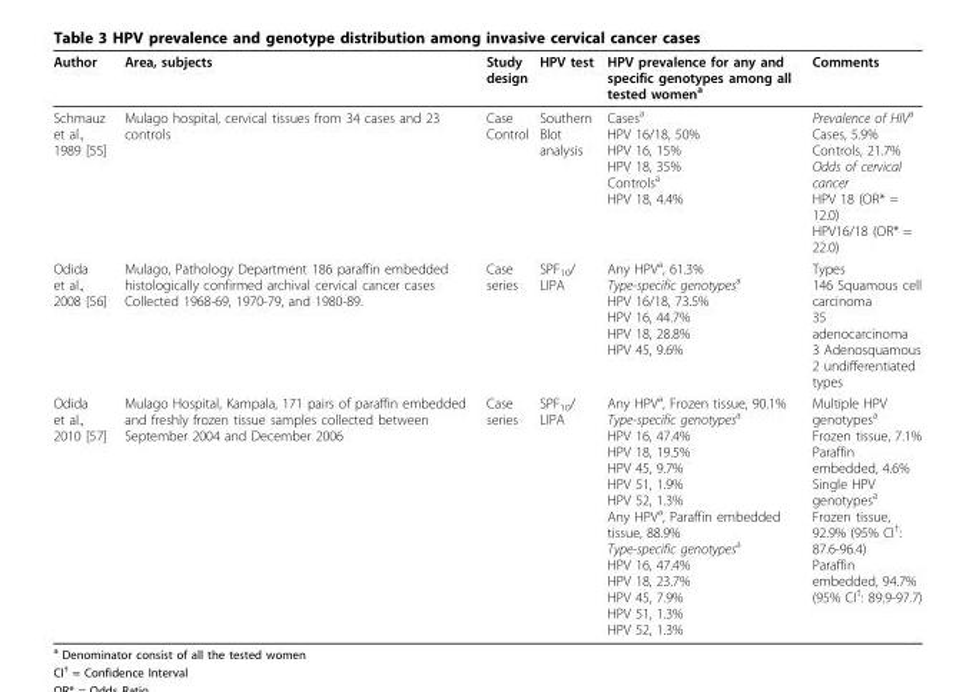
<table><thead><tr><td>Author</td><td>Area, subjects</td><td>Study design</td><td>HPV test</td><td>HPV prevalence for any and specific genotypes among all tested women<sup>a</sup></td><td>Comments</td></tr></thead><tbody><tr><td>Schmauz et al., 1989 [55]</td><td>Mulago hospital, cervical tissues from 34 cases and 23 controls</td><td>Case Control</td><td>Southern Blot analysis</td><td>Cases<sup>a</sup> HPV 16/18, 50% HPV 16, 15% HPV 18, 35% Controls<sup>a</sup> HPV 18, 4.4%</td><td>Prevalence of HIV<sup>a</sup> Cases, 5.9% Controls, 21.7% Odds of cervical cancer HPV 18 (OR* = 12.0) HPV16/18 (OR* = 22.0)</td></tr><tr><td>Odida et al., 2008 [56]</td><td>Mulago, Pathology Department 186 paraffin embedded histologically confirmed archival cervical cancer cases Collected 1968-69, 1970-79, and 1980-89.</td><td>Case series</td><td>SPF<sub>10</sub>/ LIPA</td><td>Any HPV<sup>a</sup>, 61.3% Type-specific genotypes<sup>a</sup> HPV 16/18, 73.5% HPV 16, 44.7% HPV 18, 28.8% HPV 45, 9.6%</td><td>Types 146 Squamous cell carcinoma 35 adenocarcinoma 3 Adenosquamous 2 undifferentiated types</td></tr><tr><td>Odida et al., 2010 [57]</td><td>Mulago Hospital, Kampala, 171 pairs of paraffin embedded and freshly frozen tissue samples collected between September 2004 and December 2006</td><td>Case series</td><td>SPF<sub>10</sub>/ LIPA</td><td>Any HPV<sup>a</sup>, Frozen tissue, 90.1% Type-specific genotypes<sup>a</sup> HPV 16, 47.4% HPV 18, 19.5% HPV 45, 9.7% HPV 51, 1.9% HPV 52, 1.3% Any HPV<sup>a</sup>, Paraffin embedded tissue, 88.9% Type-specific genotypes<sup>a</sup> HPV 16, 47.4% HPV 18, 23.7% HPV 45, 7.9% HPV 51, 1.3% HPV 52, 1.3%</td><td>Multiple HPV genotypes<sup>a</sup> Frozen tissue, 7.1% Paraffin embedded, 4.6% Single HPV genotypes<sup>a</sup> Frozen tissue, 92.9% (95% CI<sup>†</sup>: 87.6-96.4) Paraffin embedded, 94.7% (95% CI<sup>†</sup>: 89.9-97.7)</td></tr></tbody></table>